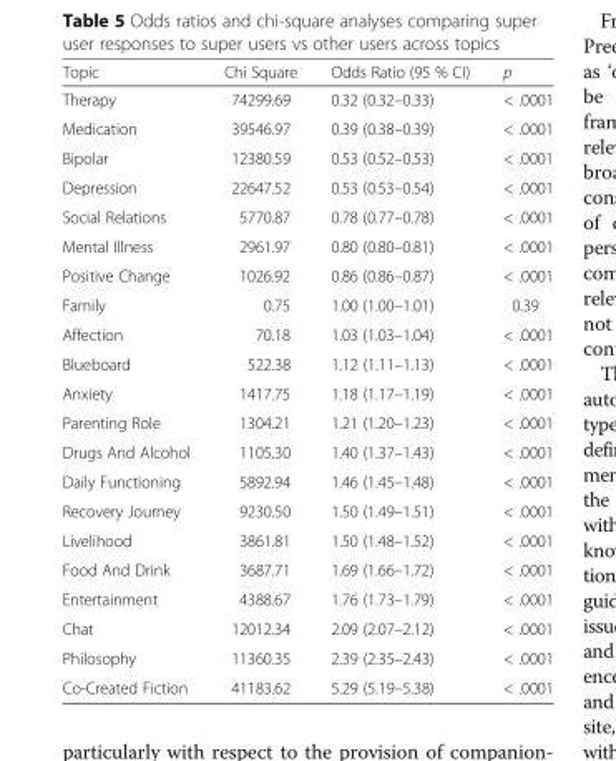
<table><thead><tr><td>Topic</td><td>Chi Square</td><td>Odds Ratio (95 % CI)</td><td>p</td></tr></thead><tbody><tr><td>Therapy</td><td>74299.69</td><td>0.32 (0.32–0.33)</td><td>&lt; .0001</td></tr><tr><td>Medication</td><td>39546.97</td><td>0.39 (0.38–0.39)</td><td>&lt; .0001</td></tr><tr><td>Bipolar</td><td>12380.59</td><td>0.53 (0.52–0.53)</td><td>&lt; .0001</td></tr><tr><td>Depression</td><td>22647.52</td><td>0.53 (0.53–0.54)</td><td>&lt; .0001</td></tr><tr><td>Social Relations</td><td>5770.87</td><td>0.78 (0.77–0.78)</td><td>&lt; .0001</td></tr><tr><td>Mental Illness</td><td>2961.97</td><td>0.80 (0.80–0.81)</td><td>&lt; .0001</td></tr><tr><td>Positive Change</td><td>1026.92</td><td>0.86 (0.86–0.87)</td><td>&lt; .0001</td></tr><tr><td>Family</td><td>0.75</td><td>1.00 (1.00–1.01)</td><td>0.39</td></tr><tr><td>Affection</td><td>70.18</td><td>1.03 (1.03–1.04)</td><td>&lt; .0001</td></tr><tr><td>Blueboard</td><td>522.38</td><td>1.12 (1.11–1.13)</td><td>&lt; .0001</td></tr><tr><td>Anxiety</td><td>1417.75</td><td>1.18 (1.17–1.19)</td><td>&lt; .0001</td></tr><tr><td>Parenting Role</td><td>1304.21</td><td>1.21 (1.20–1.23)</td><td>&lt; .0001</td></tr><tr><td>Drugs And Alcohol</td><td>1105.30</td><td>1.40 (1.37–1.43)</td><td>&lt; .0001</td></tr><tr><td>Daily Functioning</td><td>5892.94</td><td>1.46 (1.45–1.48)</td><td>&lt; .0001</td></tr><tr><td>Recovery Journey</td><td>9230.50</td><td>1.50 (1.49–1.51)</td><td>&lt; .0001</td></tr><tr><td>Livelihood</td><td>3861.81</td><td>1.50 (1.48–1.52)</td><td>&lt; .0001</td></tr><tr><td>Food And Drink</td><td>3687.71</td><td>1.69 (1.66–1.72)</td><td>&lt; .0001</td></tr><tr><td>Entertainment</td><td>4388.67</td><td>1.76 (1.73–1.79)</td><td>&lt; .0001</td></tr><tr><td>Chat</td><td>12012.34</td><td>2.09 (2.07–2.12)</td><td>&lt; .0001</td></tr><tr><td>Philosophy</td><td>11360.35</td><td>2.39 (2.35–2.43)</td><td>&lt; .0001</td></tr><tr><td>Co-Created Fiction</td><td>41183.62</td><td>5.29 (5.19–5.38)</td><td>&lt; .0001</td></tr></tbody></table>